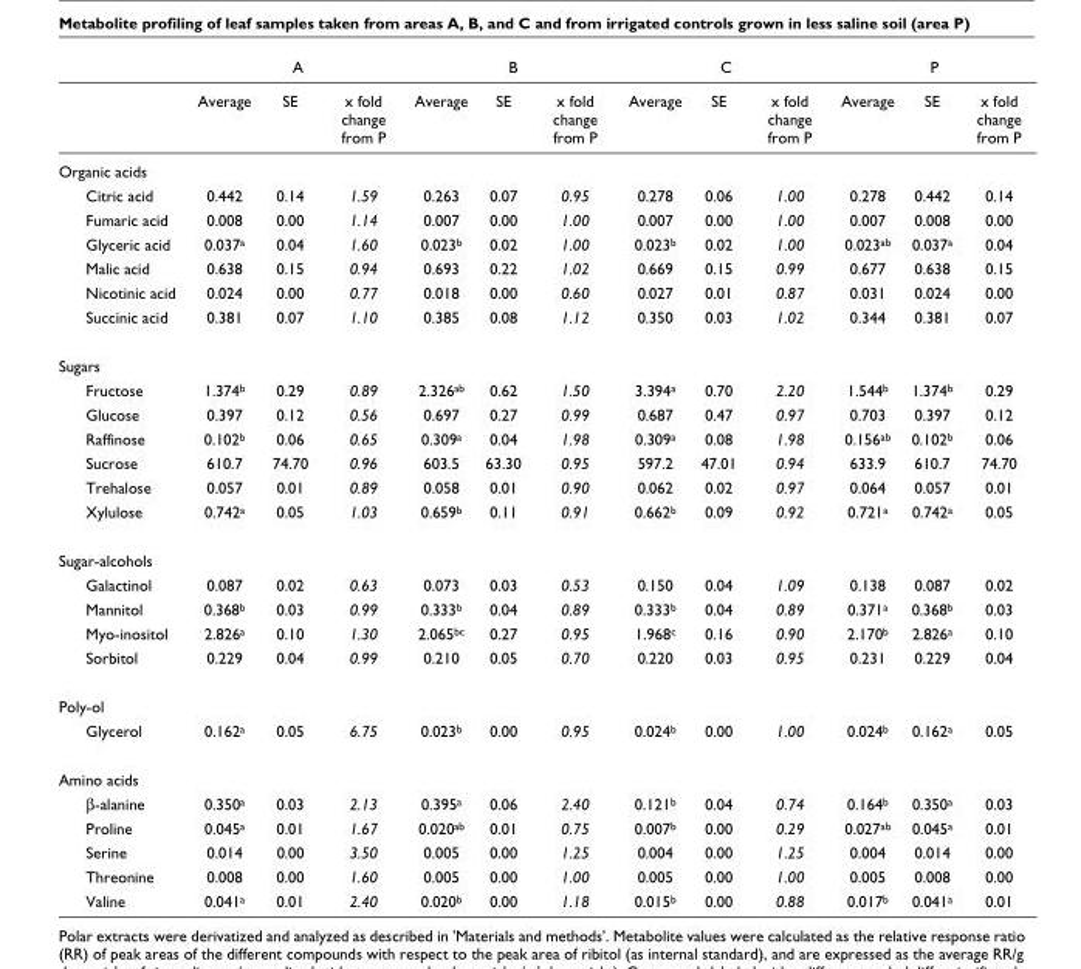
<table><thead><tr><td rowspan="2"></td><td colspan="3">A</td><td colspan="3">B</td><td colspan="3">C</td><td colspan="3">P</td></tr><tr><td>Average</td><td>SE</td><td>x fold change from P</td><td>Average</td><td>SE</td><td>x fold change from P</td><td>Average</td><td>SE</td><td>x fold change from P</td><td>Average</td><td>SE</td><td>x fold change from P</td></tr></thead><tbody><tr><td colspan="13">Organic acids</td></tr><tr><td>Citric acid</td><td>0.442</td><td>0.14</td><td>1.59</td><td>0.263</td><td>0.07</td><td>0.95</td><td>0.278</td><td>0.06</td><td>1.00</td><td>0.278</td><td>0.442</td><td>0.14</td></tr><tr><td>Fumaric acid</td><td>0.008</td><td>0.00</td><td>1.14</td><td>0.007</td><td>0.00</td><td>1.00</td><td>0.007</td><td>0.00</td><td>1.00</td><td>0.007</td><td>0.008</td><td>0.00</td></tr><tr><td>Glyceric acid</td><td>0.037a</td><td>0.04</td><td>1.60</td><td>0.023b</td><td>0.02</td><td>1.00</td><td>0.023b</td><td>0.02</td><td>1.00</td><td>0.023ab</td><td>0.037a</td><td>0.04</td></tr><tr><td>Malic acid</td><td>0.638</td><td>0.15</td><td>0.94</td><td>0.693</td><td>0.22</td><td>1.02</td><td>0.669</td><td>0.15</td><td>0.99</td><td>0.677</td><td>0.638</td><td>0.15</td></tr><tr><td>Nicotinic acid</td><td>0.024</td><td>0.00</td><td>0.77</td><td>0.018</td><td>0.00</td><td>0.60</td><td>0.027</td><td>0.01</td><td>0.87</td><td>0.031</td><td>0.024</td><td>0.00</td></tr><tr><td>Succinic acid</td><td>0.381</td><td>0.07</td><td>1.10</td><td>0.385</td><td>0.08</td><td>1.12</td><td>0.350</td><td>0.03</td><td>1.02</td><td>0.344</td><td>0.381</td><td>0.07</td></tr><tr><td colspan="13">Sugars</td></tr><tr><td>Fructose</td><td>1.374b</td><td>0.29</td><td>0.89</td><td>2.326ab</td><td>0.62</td><td>1.50</td><td>3.394a</td><td>0.70</td><td>2.20</td><td>1.544b</td><td>1.374b</td><td>0.29</td></tr><tr><td>Glucose</td><td>0.397</td><td>0.12</td><td>0.56</td><td>0.697</td><td>0.27</td><td>0.99</td><td>0.687</td><td>0.47</td><td>0.97</td><td>0.703</td><td>0.397</td><td>0.12</td></tr><tr><td>Raffinose</td><td>0.102b</td><td>0.06</td><td>0.65</td><td>0.309a</td><td>0.04</td><td>1.98</td><td>0.309a</td><td>0.08</td><td>1.98</td><td>0.156ab</td><td>0.102b</td><td>0.06</td></tr><tr><td>Sucrose</td><td>610.7</td><td>74.70</td><td>0.96</td><td>603.5</td><td>63.30</td><td>0.95</td><td>597.2</td><td>47.01</td><td>0.94</td><td>633.9</td><td>610.7</td><td>74.70</td></tr><tr><td>Trehalose</td><td>0.057</td><td>0.01</td><td>0.89</td><td>0.058</td><td>0.01</td><td>0.90</td><td>0.062</td><td>0.02</td><td>0.97</td><td>0.064</td><td>0.057</td><td>0.01</td></tr><tr><td>Xylulose</td><td>0.742a</td><td>0.05</td><td>1.03</td><td>0.659b</td><td>0.11</td><td>0.91</td><td>0.662b</td><td>0.09</td><td>0.92</td><td>0.721a</td><td>0.742a</td><td>0.05</td></tr><tr><td colspan="13">Sugar-alcohols</td></tr><tr><td>Galactinol</td><td>0.087</td><td>0.02</td><td>0.63</td><td>0.073</td><td>0.03</td><td>0.53</td><td>0.150</td><td>0.04</td><td>1.09</td><td>0.138</td><td>0.087</td><td>0.02</td></tr><tr><td>Mannitol</td><td>0.368b</td><td>0.03</td><td>0.99</td><td>0.333b</td><td>0.04</td><td>0.89</td><td>0.333b</td><td>0.04</td><td>0.89</td><td>0.371a</td><td>0.368b</td><td>0.03</td></tr><tr><td>Myo-inositol</td><td>2.826a</td><td>0.10</td><td>1.30</td><td>2.065bc</td><td>0.27</td><td>0.95</td><td>1.968c</td><td>0.16</td><td>0.90</td><td>2.170b</td><td>2.826a</td><td>0.10</td></tr><tr><td>Sorbitol</td><td>0.229</td><td>0.04</td><td>0.99</td><td>0.210</td><td>0.05</td><td>0.70</td><td>0.220</td><td>0.03</td><td>0.95</td><td>0.231</td><td>0.229</td><td>0.04</td></tr><tr><td colspan="13">Poly-ol</td></tr><tr><td>Glycerol</td><td>0.162a</td><td>0.05</td><td>6.75</td><td>0.023b</td><td>0.00</td><td>0.95</td><td>0.024b</td><td>0.00</td><td>1.00</td><td>0.024b</td><td>0.162a</td><td>0.05</td></tr><tr><td colspan="13">Amino acids</td></tr><tr><td>β-alanine</td><td>0.350a</td><td>0.03</td><td>2.13</td><td>0.395a</td><td>0.06</td><td>2.40</td><td>0.121b</td><td>0.04</td><td>0.74</td><td>0.164b</td><td>0.350a</td><td>0.03</td></tr><tr><td>Proline</td><td>0.045a</td><td>0.01</td><td>1.67</td><td>0.020ab</td><td>0.01</td><td>0.75</td><td>0.007b</td><td>0.00</td><td>0.29</td><td>0.027ab</td><td>0.045a</td><td>0.01</td></tr><tr><td>Serine</td><td>0.014</td><td>0.00</td><td>3.50</td><td>0.005</td><td>0.00</td><td>1.25</td><td>0.004</td><td>0.00</td><td>1.25</td><td>0.004</td><td>0.014</td><td>0.00</td></tr><tr><td>Threonine</td><td>0.008</td><td>0.00</td><td>1.60</td><td>0.005</td><td>0.00</td><td>1.00</td><td>0.005</td><td>0.00</td><td>1.00</td><td>0.005</td><td>0.008</td><td>0.00</td></tr><tr><td>Valine</td><td>0.041a</td><td>0.01</td><td>2.40</td><td>0.020b</td><td>0.00</td><td>1.18</td><td>0.015b</td><td>0.00</td><td>0.88</td><td>0.017b</td><td>0.041a</td><td>0.01</td></tr></tbody></table>